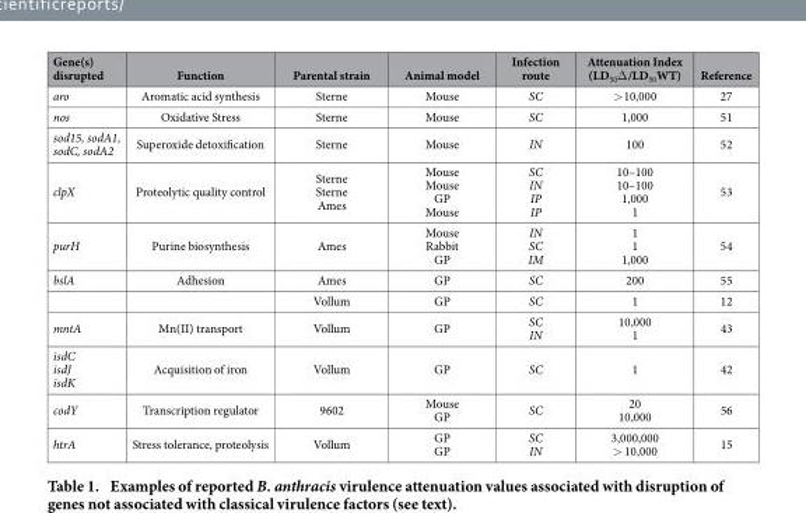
<table><thead><tr><td>Gene(s) disrupted</td><td>Function</td><td>Parental strain</td><td>Animal model</td><td>Infection route</td><td>Attenuation Index (LD<sub>50</sub>Δ /LD<sub>50</sub>WT)</td><td>Reference</td></tr></thead><tbody><tr><td>aro</td><td>Aromatic acid synthesis</td><td>Sterne</td><td>Mouse</td><td>SC</td><td>&gt; 10,000</td><td>27</td></tr><tr><td>nos</td><td>Oxidative Stress</td><td>Sterne</td><td>Mouse</td><td>SC</td><td>1,000</td><td>51</td></tr><tr><td>sod15, sodA1, sodC, sodA2</td><td>Superoxide detoxification</td><td>Sterne</td><td>Mouse</td><td>IN</td><td>100</td><td>52</td></tr><tr><td>clpX</td><td>Proteolytic quality control</td><td>Sterne Sterne Ames</td><td>Mouse Mouse GP Mouse</td><td>SC IN IP IP</td><td>10–100 10–100 1,000 1</td><td>53</td></tr><tr><td>purH</td><td>Purine biosynthesis</td><td>Ames</td><td>Mouse Rabbit GP</td><td>IN SC IM</td><td>1 1 1,000</td><td>54</td></tr><tr><td rowspan="2">bslA</td><td>Adhesion</td><td>Ames</td><td>GP</td><td>SC</td><td>200</td><td>55</td></tr><tr><td></td><td>Vollum</td><td>GP</td><td>SC</td><td>1</td><td>12</td></tr><tr><td>mntA</td><td>Mn(II) transport</td><td>Vollum</td><td>GP</td><td>SC IN</td><td>10,000 1</td><td>43</td></tr><tr><td>isdC isdJ isdK</td><td>Acquisition of iron</td><td>Vollum</td><td>GP</td><td>SC</td><td>1</td><td>42</td></tr><tr><td>codY</td><td>Transcription regulator</td><td>9602</td><td>Mouse GP</td><td>SC</td><td>20 10,000</td><td>56</td></tr><tr><td>htrA</td><td>Stress tolerance, proteolysis</td><td>Vollum</td><td>GP GP</td><td>SC IN</td><td>3,000,000 &gt; 10,000</td><td>15</td></tr></tbody></table>